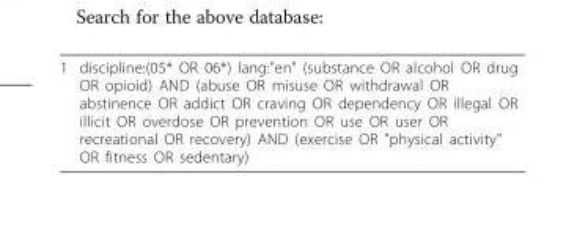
<table><tbody><tr><td>1</td><td>discipline:(05* OR 06*) lang:&quot;en&quot; (substance OR alcohol OR drug OR opioid) AND (abuse OR misuse OR withdrawal OR abstinence OR addict OR craving OR dependency OR illegal OR illicit OR overdose OR prevention OR use OR user OR recreational OR recovery) AND (exercise OR &quot;physical activity&quot; OR fitness OR sedentary)</td></tr></tbody></table>